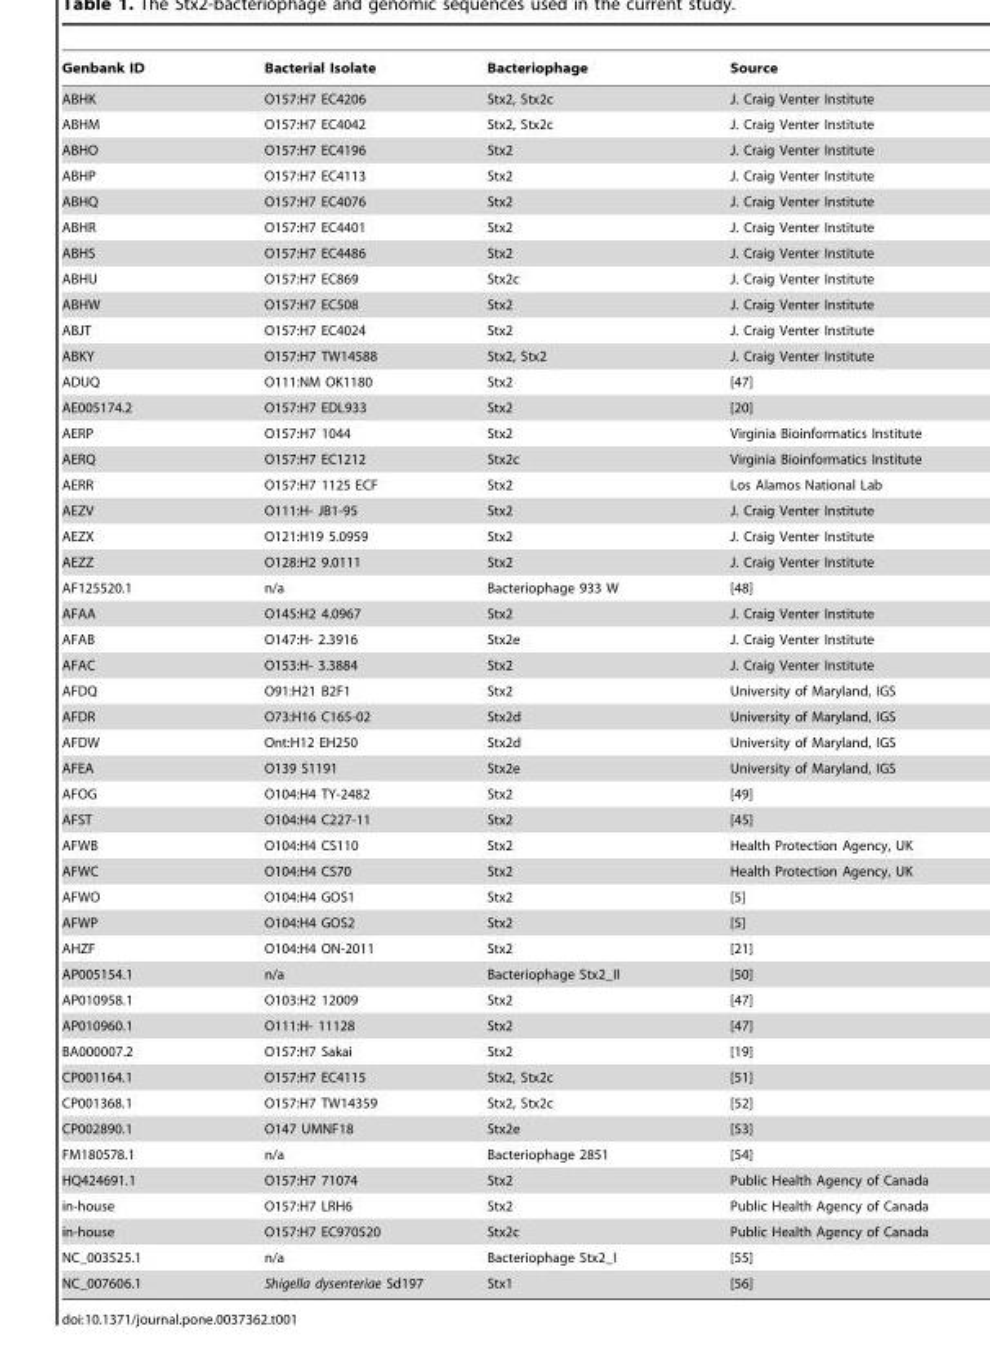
<table><thead><tr><td>Genbank ID</td><td>Bacterial Isolate</td><td>Bacteriophage</td><td>Source</td></tr></thead><tbody><tr><td>ABHK</td><td>O157:H7 EC4206</td><td>Stx2, Stx2c</td><td>J. Craig Venter Institute</td></tr><tr><td>ABHM</td><td>O157:H7 EC4042</td><td>Stx2, Stx2c</td><td>J. Craig Venter Institute</td></tr><tr><td>ABHO</td><td>O157:H7 EC4196</td><td>Stx2</td><td>J. Craig Venter Institute</td></tr><tr><td>ABHP</td><td>O157:H7 EC4113</td><td>Stx2</td><td>J. Craig Venter Institute</td></tr><tr><td>ABHQ</td><td>O157:H7 EC4076</td><td>Stx2</td><td>J. Craig Venter Institute</td></tr><tr><td>ABHR</td><td>O157:H7 EC4401</td><td>Stx2</td><td>J. Craig Venter Institute</td></tr><tr><td>ABHS</td><td>O157:H7 EC4486</td><td>Stx2</td><td>J. Craig Venter Institute</td></tr><tr><td>ABHU</td><td>O157:H7 EC869</td><td>Stx2c</td><td>J. Craig Venter Institute</td></tr><tr><td>ABHW</td><td>O157:H7 EC508</td><td>Stx2</td><td>J. Craig Venter Institute</td></tr><tr><td>ABJT</td><td>O157:H7 EC4024</td><td>Stx2</td><td>J. Craig Venter Institute</td></tr><tr><td>ABKY</td><td>O157:H7 TW14588</td><td>Stx2, Stx2</td><td>J. Craig Venter Institute</td></tr><tr><td>ADUQ</td><td>O111:NM OK1180</td><td>Stx2</td><td>[47]</td></tr><tr><td>AE005174.2</td><td>O157:H7 EDL933</td><td>Stx2</td><td>[20]</td></tr><tr><td>AERP</td><td>O157:H7 1044</td><td>Stx2</td><td>Virginia Bioinformatics Institute</td></tr><tr><td>AERQ</td><td>O157:H7 EC1212</td><td>Stx2c</td><td>Virginia Bioinformatics Institute</td></tr><tr><td>AERR</td><td>O157:H7 1125 ECF</td><td>Stx2</td><td>Los Alamos National Lab</td></tr><tr><td>AEZV</td><td>O111:H- JB1-95</td><td>Stx2</td><td>J. Craig Venter Institute</td></tr><tr><td>AEZX</td><td>O121:H19 5.0959</td><td>Stx2</td><td>J. Craig Venter Institute</td></tr><tr><td>AEZZ</td><td>O128:H2 9.0111</td><td>Stx2</td><td>J. Craig Venter Institute</td></tr><tr><td>AF125520.1</td><td>n/a</td><td>Bacteriophage 933 W</td><td>[48]</td></tr><tr><td>AFAA</td><td>O145:H2 4.0967</td><td>Stx2</td><td>J. Craig Venter Institute</td></tr><tr><td>AFAB</td><td>O147:H- 2.3916</td><td>Stx2e</td><td>J. Craig Venter Institute</td></tr><tr><td>AFAC</td><td>O153:H- 3.3884</td><td>Stx2</td><td>J. Craig Venter Institute</td></tr><tr><td>AFDQ</td><td>O91:H21 B2F1</td><td>Stx2</td><td>University of Maryland, IGS</td></tr><tr><td>AFDR</td><td>O73:H16 C165-02</td><td>Stx2d</td><td>University of Maryland, IGS</td></tr><tr><td>AFDW</td><td>Ont:H12 EH250</td><td>Stx2d</td><td>University of Maryland, IGS</td></tr><tr><td>AFEA</td><td>O139 S1191</td><td>Stx2e</td><td>University of Maryland, IGS</td></tr><tr><td>AFOG</td><td>O104:H4 TY-2482</td><td>Stx2</td><td>[49]</td></tr><tr><td>AFST</td><td>O104:H4 C227-11</td><td>Stx2</td><td>[45]</td></tr><tr><td>AFWB</td><td>O104:H4 CS110</td><td>Stx2</td><td>Health Protection Agency, UK</td></tr><tr><td>AFWC</td><td>O104:H4 CS70</td><td>Stx2</td><td>Health Protection Agency, UK</td></tr><tr><td>AFWO</td><td>O104:H4 GOS1</td><td>Stx2</td><td>[5]</td></tr><tr><td>AFWP</td><td>O104:H4 GOS2</td><td>Stx2</td><td>[5]</td></tr><tr><td>AHZF</td><td>O104:H4 ON-2011</td><td>Stx2</td><td>[21]</td></tr><tr><td>AP005154.1</td><td>n/a</td><td>Bacteriophage Stx2_II</td><td>[50]</td></tr><tr><td>AP010958.1</td><td>O103:H2 12009</td><td>Stx2</td><td>[47]</td></tr><tr><td>AP010960.1</td><td>O111:H- 11128</td><td>Stx2</td><td>[47]</td></tr><tr><td>BA000007.2</td><td>O157:H7 Sakai</td><td>Stx2</td><td>[19]</td></tr><tr><td>CP001164.1</td><td>O157:H7 EC4115</td><td>Stx2, Stx2c</td><td>[51]</td></tr><tr><td>CP001368.1</td><td>O157:H7 TW14359</td><td>Stx2, Stx2c</td><td>[52]</td></tr><tr><td>CP002890.1</td><td>O147 UMNF18</td><td>Stx2e</td><td>[53]</td></tr><tr><td>FM180578.1</td><td>n/a</td><td>Bacteriophage 2851</td><td>[54]</td></tr><tr><td>HQ424691.1</td><td>O157:H7 71074</td><td>Stx2</td><td>Public Health Agency of Canada</td></tr><tr><td>in-house</td><td>O157:H7 LRH6</td><td>Stx2</td><td>Public Health Agency of Canada</td></tr><tr><td>in-house</td><td>O157:H7 EC970520</td><td>Stx2c</td><td>Public Health Agency of Canada</td></tr><tr><td>NC_003525.1</td><td>n/a</td><td>Bacteriophage Stx2_I</td><td>[55]</td></tr><tr><td>NC_007606.1</td><td>Shigella dysenteriae Sd197</td><td>Stx1</td><td>[56]</td></tr></tbody></table>